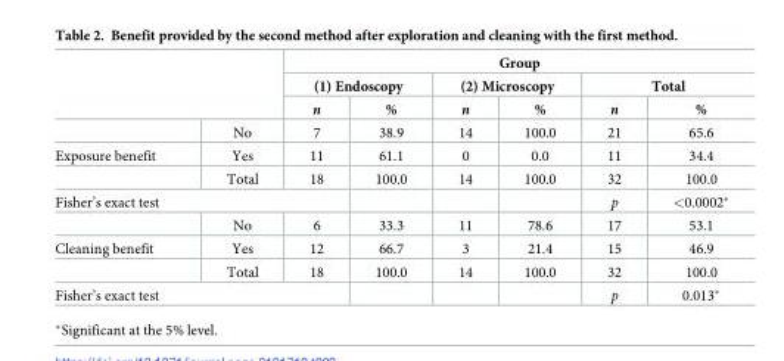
<table><thead><tr><td rowspan="3"></td><td rowspan="3"></td><td colspan="6">Group</td></tr><tr><td colspan="2">(1) Endoscopy</td><td colspan="2">(2) Microscopy</td><td colspan="2">Total</td></tr><tr><td>n</td><td>%</td><td>n</td><td>%</td><td>n</td><td>%</td></tr></thead><tbody><tr><td></td><td>No</td><td>7</td><td>38.9</td><td>14</td><td>100.0</td><td>21</td><td>65.6</td></tr><tr><td rowspan="2">Exposure benefit</td><td>Yes</td><td>11</td><td>61.1</td><td>0</td><td>0.0</td><td>11</td><td>34.4</td></tr><tr><td>Total</td><td>18</td><td>100.0</td><td>14</td><td>100.0</td><td>32</td><td>100.0</td></tr><tr><td colspan="3">Fisher’s exact test</td><td></td><td></td><td></td><td>p</td><td>&lt;0.0002*</td></tr><tr><td></td><td>No</td><td>6</td><td>33.3</td><td>11</td><td>78.6</td><td>17</td><td>53.1</td></tr><tr><td rowspan="2">Cleaning benefit</td><td>Yes</td><td>12</td><td>66.7</td><td>3</td><td>21.4</td><td>15</td><td>46.9</td></tr><tr><td>Total</td><td>18</td><td>100.0</td><td>14</td><td>100.0</td><td>32</td><td>100.0</td></tr><tr><td colspan="3">Fisher’s exact test</td><td></td><td></td><td></td><td>p</td><td>0.013*</td></tr></tbody></table>